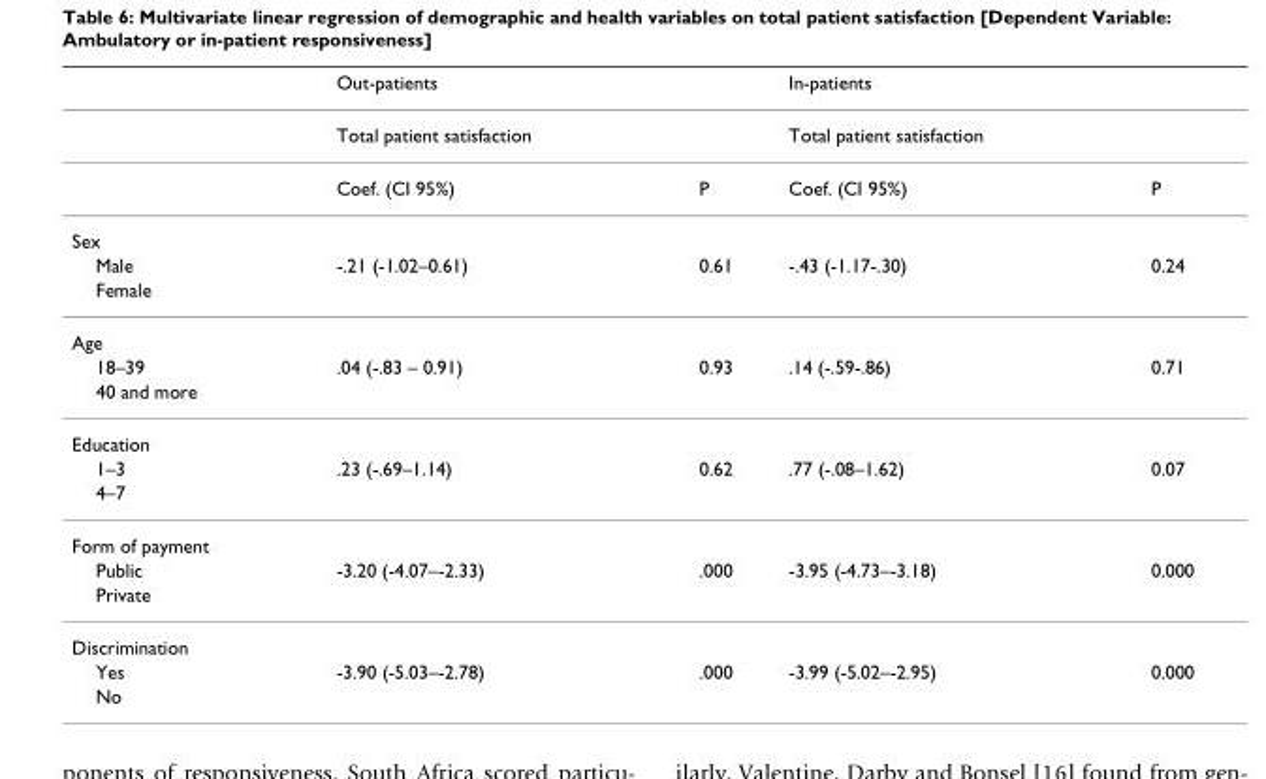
<table><thead><tr><td rowspan="2"></td><td colspan="2">Out-patients</td><td colspan="2">In-patients</td></tr><tr><td>Total patient satisfaction</td><td></td><td>Total patient satisfaction</td><td></td></tr></thead><tbody><tr><td></td><td>Coef. (CI 95%)</td><td>P</td><td>Coef. (CI 95%)</td><td>P</td></tr><tr><td colspan="5">Sex</td></tr><tr><td>Male</td><td>-.21 (-1.02–0.61)</td><td>0.61</td><td>-.43 (-1.17-.30)</td><td>0.24</td></tr><tr><td colspan="5">Female</td></tr><tr><td colspan="5">Age</td></tr><tr><td>18–39</td><td>.04 (-.83 – 0.91)</td><td>0.93</td><td>.14 (-.59-.86)</td><td>0.71</td></tr><tr><td colspan="5">40 and more</td></tr><tr><td colspan="5">Education</td></tr><tr><td>1–3</td><td>.23 (-.69–1.14)</td><td>0.62</td><td>.77 (-.08–1.62)</td><td>0.07</td></tr><tr><td colspan="5">4–7</td></tr><tr><td colspan="5">Form of payment</td></tr><tr><td>Public</td><td>-3.20 (-4.07–-2.33)</td><td>.000</td><td>-3.95 (-4.73–-3.18)</td><td>0.000</td></tr><tr><td colspan="5">Private</td></tr><tr><td colspan="5">Discrimination</td></tr><tr><td>Yes</td><td>-3.90 (-5.03–-2.78)</td><td>.000</td><td>-3.99 (-5.02–-2.95)</td><td>0.000</td></tr><tr><td>No</td><td></td><td></td><td></td><td></td></tr></tbody></table>